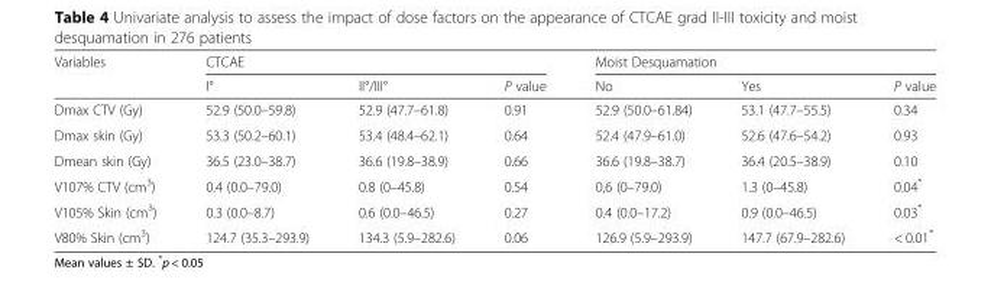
<table><thead><tr><td rowspan="2">Variables</td><td colspan="3">CTCAE</td><td colspan="3">Moist Desquamation</td></tr><tr><td>I°</td><td>II°/III°</td><td>P value</td><td>No</td><td>Yes</td><td>P value</td></tr></thead><tbody><tr><td>Dmax CTV (Gy)</td><td>52.9 (50.0–59.8)</td><td>52.9 (47.7–61.8)</td><td>0.91</td><td>52.9 (50.0–61.84)</td><td>53.1 (47.7–55.5)</td><td>0.34</td></tr><tr><td>Dmax skin (Gy)</td><td>53.3 (50.2–60.1)</td><td>53.4 (48.4–62.1)</td><td>0.64</td><td>52.4 (47.9–61.0)</td><td>52.6 (47.6–54.2)</td><td>0.93</td></tr><tr><td>Dmean skin (Gy)</td><td>36.5 (23.0–38.7)</td><td>36.6 (19.8–38.9)</td><td>0.66</td><td>36.6 (19.8–38.7)</td><td>36.4 (20.5–38.9)</td><td>0.10</td></tr><tr><td>V107% CTV (cm<sup>3</sup>)</td><td>0.4 (0.0–79.0)</td><td>0.8 (0–45.8)</td><td>0.54</td><td>0,6 (0–79.0)</td><td>1.3 (0–45.8)</td><td>0.04*</td></tr><tr><td>V105% Skin (cm<sup>3</sup>)</td><td>0.3 (0.0–8.7)</td><td>0.6 (0.0–46.5)</td><td>0.27</td><td>0.4 (0.0–17.2)</td><td>0.9 (0.0–46.5)</td><td>0.03*</td></tr><tr><td>V80% Skin (cm<sup>3</sup>)</td><td>124.7 (35.3–293.9)</td><td>134.3 (5.9–282.6)</td><td>0.06</td><td>126.9 (5.9–293.9)</td><td>147.7 (67.9–282.6)</td><td>&lt; 0.01*</td></tr></tbody></table>